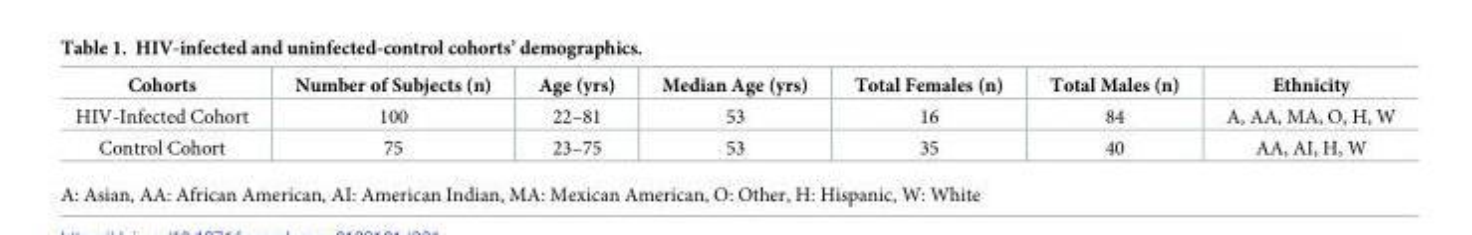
<table><thead><tr><td>Cohorts</td><td>Number of Subjects (n)</td><td>Age (yrs)</td><td>Median Age (yrs)</td><td>Total Females (n)</td><td>Total Males (n)</td><td>Ethnicity</td></tr></thead><tbody><tr><td>HIV-Infected Cohort</td><td>100</td><td>22–81</td><td>53</td><td>16</td><td>84</td><td>A, AA, MA, O, H, W</td></tr><tr><td>Control Cohort</td><td>75</td><td>23–75</td><td>53</td><td>35</td><td>40</td><td>AA, AI, H, W</td></tr></tbody></table>